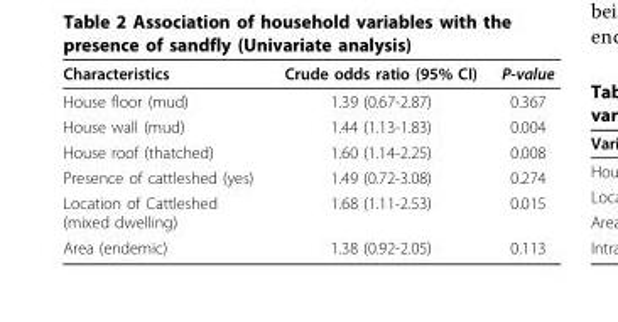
<table><thead><tr><td>Characteristics</td><td>Crude odds ratio (95% CI)</td><td>P-value</td></tr></thead><tbody><tr><td>House floor (mud)</td><td>1.39 (0.67-2.87)</td><td>0.367</td></tr><tr><td>House wall (mud)</td><td>1.44 (1.13-1.83)</td><td>0.004</td></tr><tr><td>House roof (thatched)</td><td>1.60 (1.14-2.25)</td><td>0.008</td></tr><tr><td>Presence of cattleshed (yes)</td><td>1.49 (0.72-3.08)</td><td>0.274</td></tr><tr><td>Location of Cattleshed (mixed dwelling)</td><td>1.68 (1.11-2.53)</td><td>0.015</td></tr><tr><td>Area (endemic)</td><td>1.38 (0.92-2.05)</td><td>0.113</td></tr></tbody></table>